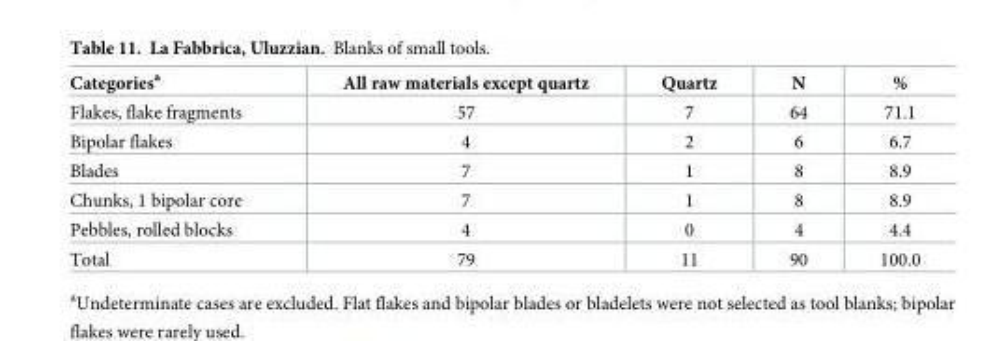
<table><thead><tr><td>Categories<sup>a</sup></td><td>All raw materials except quartz</td><td>Quartz</td><td>N</td><td>%</td></tr></thead><tbody><tr><td>Flakes, flake fragments</td><td>57</td><td>7</td><td>64</td><td>71.1</td></tr><tr><td>Bipolar flakes</td><td>4</td><td>2</td><td>6</td><td>6.7</td></tr><tr><td>Blades</td><td>7</td><td>1</td><td>8</td><td>8.9</td></tr><tr><td>Chunks, 1 bipolar core</td><td>7</td><td>1</td><td>8</td><td>8.9</td></tr><tr><td>Pebbles, rolled blocks</td><td>4</td><td>0</td><td>4</td><td>4.4</td></tr><tr><td>Total</td><td>79</td><td>11</td><td>90</td><td>100.0</td></tr></tbody></table>